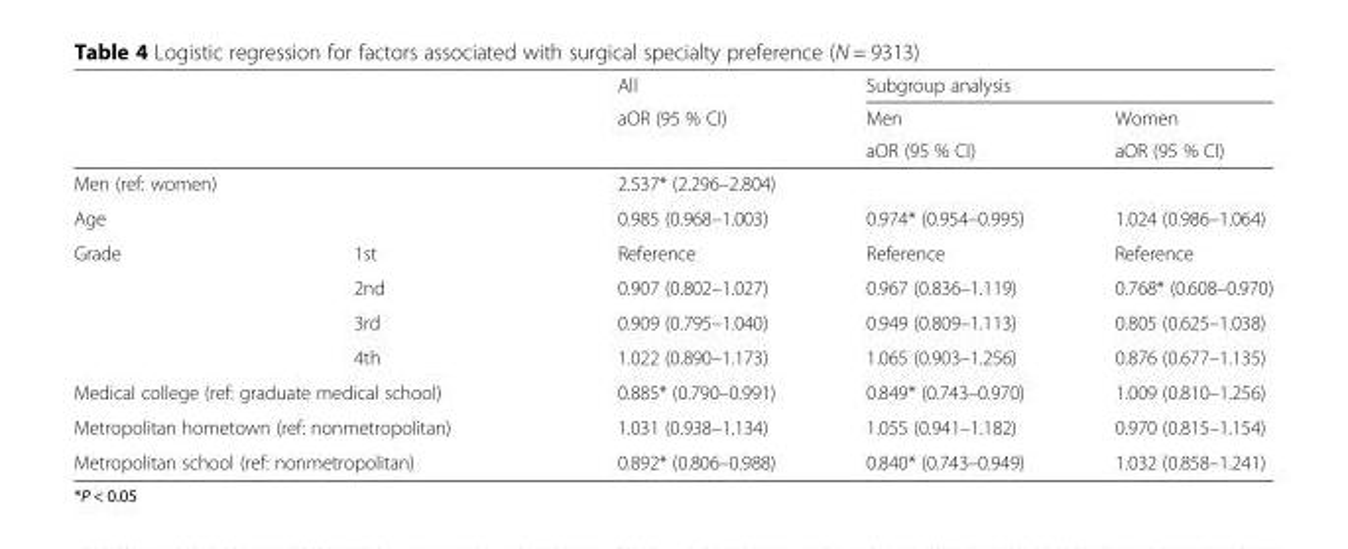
<table><thead><tr><td rowspan="3"></td><td rowspan="3"></td><td rowspan="3">All aOR (95 % CI)</td><td colspan="2">Subgroup analysis</td></tr><tr><td rowspan="2">Men aOR (95 % CI)</td><td rowspan="2">Women aOR (95 % CI)</td></tr><tr></tr></thead><tbody><tr><td colspan="2">Men (ref: women)</td><td>2.537* (2.296–2.804)</td><td></td><td></td></tr><tr><td colspan="2">Age</td><td>0.985 (0.968–1.003)</td><td>0.974* (0.954–0.995)</td><td>1.024 (0.986–1.064)</td></tr><tr><td rowspan="4">Grade</td><td>1st</td><td>Reference</td><td>Reference</td><td>Reference</td></tr><tr><td>2nd</td><td>0.907 (0.802–1.027)</td><td>0.967 (0.836–1.119)</td><td>0.768* (0.608–0.970)</td></tr><tr><td>3rd</td><td>0.909 (0.795–1.040)</td><td>0.949 (0.809–1.113)</td><td>0.805 (0.625–1.038)</td></tr><tr><td>4th</td><td>1.022 (0.890–1.173)</td><td>1.065 (0.903–1.256)</td><td>0.876 (0.677–1.135)</td></tr><tr><td colspan="2">Medical college (ref: graduate medical school)</td><td>0.885* (0.790–0.991)</td><td>0.849* (0.743–0.970)</td><td>1.009 (0.810–1.256)</td></tr><tr><td colspan="2">Metropolitan hometown (ref: nonmetropolitan)</td><td>1.031 (0.938–1.134)</td><td>1.055 (0.941–1.182)</td><td>0.970 (0.815–1.154)</td></tr><tr><td colspan="2">Metropolitan school (ref: nonmetropolitan)</td><td>0.892* (0.806–0.988)</td><td>0.840* (0.743–0.949)</td><td>1.032 (0.858–1.241)</td></tr></tbody></table>